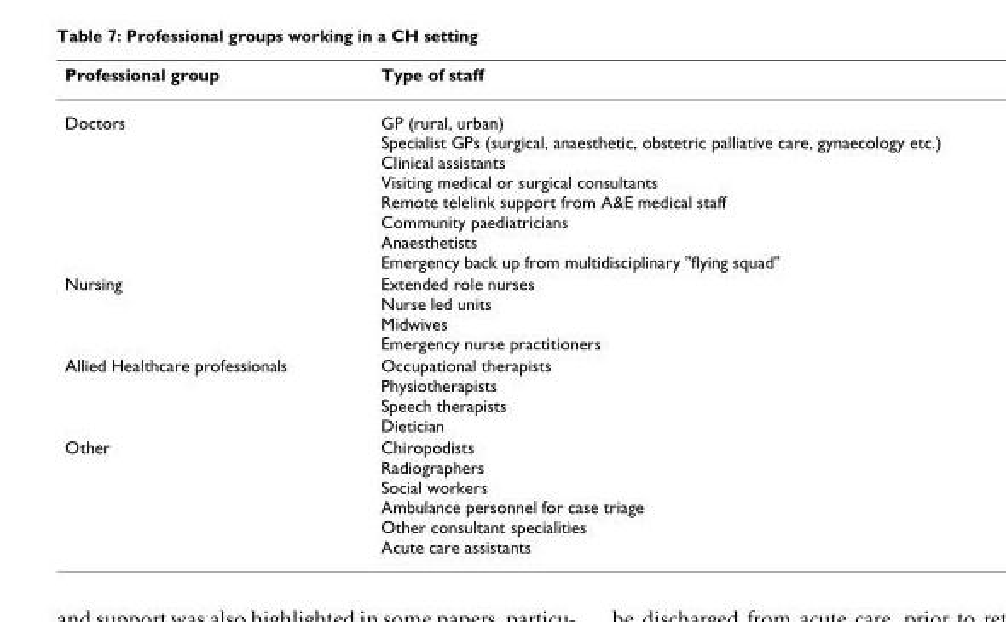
<table><thead><tr><td>Professional group</td><td>Type of staff</td></tr></thead><tbody><tr><td>Doctors</td><td>GP (rural, urban) Specialist GPs (surgical, anaesthetic, obstetric palliative care, gynaecology etc.) Clinical assistants Visiting medical or surgical consultants Remote telelink support from A&amp;E medical staff Community paediatricians Anaesthetists Emergency back up from multidisciplinary &quot;flying squad&quot;</td></tr><tr><td>Nursing</td><td>Extended role nurses Nurse led units Midwives Emergency nurse practitioners</td></tr><tr><td>Allied Healthcare professionals</td><td>Occupational therapists Physiotherapists Speech therapists Dietician</td></tr><tr><td>Other</td><td>Chiropodists Radiographers Social workers Ambulance personnel for case triage Other consultant specialities Acute care assistants</td></tr></tbody></table>